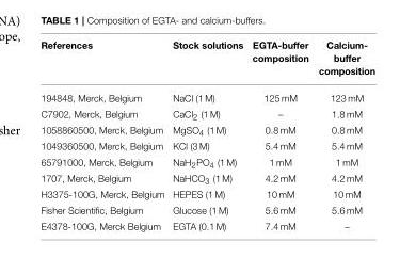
<table><thead><tr><td>References</td><td>Stock solutions</td><td>EGTA-buffer composition</td><td>Calcium- buffer composition</td></tr></thead><tbody><tr><td>194848, Merck, Belgium</td><td>NaCl (1 M)</td><td>125 mM</td><td>123 mM</td></tr><tr><td>C7902, Merck, Belgium</td><td>CaCl<sub>2</sub> (1 M)</td><td>–</td><td>1.8 mM</td></tr><tr><td>1058860500, Merck, Belgium</td><td>MgSO<sub>4</sub> (1 M)</td><td>0.8 mM</td><td>0.8 mM</td></tr><tr><td>1049360500, Merck, Belgium</td><td>KCl (3 M)</td><td>5.4 mM</td><td>5.4 mM</td></tr><tr><td>65791000, Merck, Belgium</td><td>NaH<sub>2</sub>PO<sub>4</sub> (1 M)</td><td>1 mM</td><td>1 mM</td></tr><tr><td>1707, Merck, Belgium</td><td>NaHCO<sub>3</sub> (1 M)</td><td>4.2 mM</td><td>4.2 mM</td></tr><tr><td>H3375-100G, Merck, Belgium</td><td>HEPES (1 M)</td><td>10 mM</td><td>10 mM</td></tr><tr><td>Fisher Scientific, Belgium</td><td>Glucose (1 M)</td><td>5.6 mM</td><td>5.6 mM</td></tr><tr><td>E4378-100G, Merck Belgium</td><td>EGTA (0.1 M)</td><td>7.4 mM</td><td>–</td></tr></tbody></table>